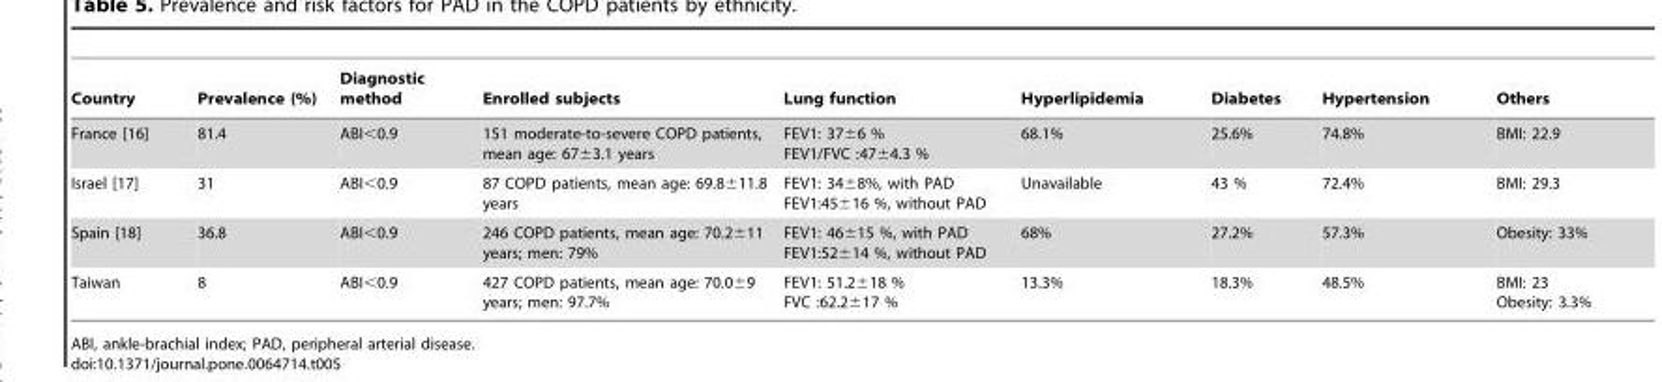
<table><thead><tr><td>Country</td><td>Prevalence (%)</td><td>Diagnostic method</td><td>Enrolled subjects</td><td>Lung function</td><td>Hyperlipidemia</td><td>Diabetes</td><td>Hypertension</td><td>Others</td></tr></thead><tbody><tr><td>France [16]</td><td>81.4</td><td>ABI&lt;0.9</td><td>151 moderate-to-severe COPD patients, mean age: 67±3.1 years</td><td>FEV1: 37±6 % FEV1/FVC :47±4.3 %</td><td>68.1%</td><td>25.6%</td><td>74.8%</td><td>BMI: 22.9</td></tr><tr><td>Israel [17]</td><td>31</td><td>ABI&lt;0.9</td><td>87 COPD patients, mean age: 69.8±11.8 years</td><td>FEV1: 34±8%, with PAD FEV1:45±16 %, without PAD</td><td>Unavailable</td><td>43 %</td><td>72.4%</td><td>BMI: 29.3</td></tr><tr><td>Spain [18]</td><td>36.8</td><td>ABI&lt;0.9</td><td>246 COPD patients, mean age: 70.2±11 years; men: 79%</td><td>FEV1: 46±15 %, with PAD FEV1:52±14 %, without PAD</td><td>68%</td><td>27.2%</td><td>57.3%</td><td>Obesity: 33%</td></tr><tr><td>Taiwan</td><td>8</td><td>ABI&lt;0.9</td><td>427 COPD patients, mean age: 70.0±9 years; men: 97.7%</td><td>FEV1: 51.2±18 % FVC :62.2±17 %</td><td>13.3%</td><td>18.3%</td><td>48.5%</td><td>BMI: 23 Obesity: 3.3%</td></tr></tbody></table>